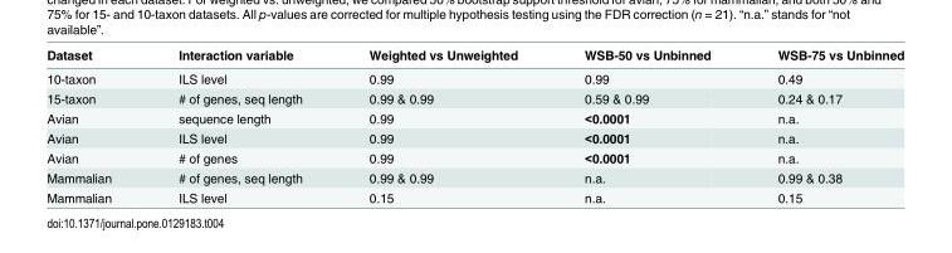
<table><thead><tr><td>Dataset</td><td>Interaction variable</td><td>Weighted vs Unweighted</td><td>WSB-50 vs Unbinned</td><td>WSB-75 vs Unbinned</td></tr></thead><tbody><tr><td>10-taxon</td><td>ILS level</td><td>0.99</td><td>0.99</td><td>0.49</td></tr><tr><td>15-taxon</td><td># of genes, seq length</td><td>0.99 &amp; 0.99</td><td>0.59 &amp; 0.99</td><td>0.24 &amp; 0.17</td></tr><tr><td>Avian</td><td>sequence length</td><td>0.99</td><td>&lt;0.0001</td><td>n.a.</td></tr><tr><td>Avian</td><td>ILS level</td><td>0.99</td><td>&lt;0.0001</td><td>n.a.</td></tr><tr><td>Avian</td><td># of genes</td><td>0.99</td><td>&lt;0.0001</td><td>n.a.</td></tr><tr><td>Mammalian</td><td># of genes, seq length</td><td>0.99 &amp; 0.99</td><td>n.a.</td><td>0.99 &amp; 0.38</td></tr><tr><td>Mammalian</td><td>ILS level</td><td>0.15</td><td>n.a.</td><td>0.15</td></tr></tbody></table>